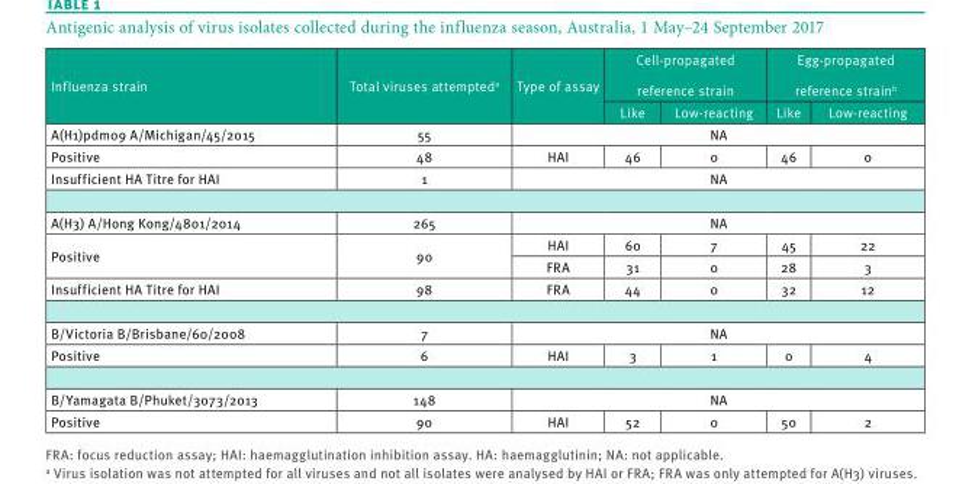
<table><thead><tr><td rowspan="2">Influenza strain</td><td rowspan="2">Total viruses attempted<sup>a</sup></td><td rowspan="2">Type of assay</td><td colspan="2">Cell-propagated reference strain</td><td colspan="2">Egg-propagated reference strain<sup>b</sup></td></tr><tr><td>Like</td><td>Low-reacting</td><td>Like</td><td>Low-reacting</td></tr></thead><tbody><tr><td>A(H1)pdm09 A/Michigan/45/2015</td><td>55</td><td colspan="5">NA</td></tr><tr><td>Positive</td><td>48</td><td>HAI</td><td>46</td><td>0</td><td>46</td><td>0</td></tr><tr><td>Insufficient HA Titre for HAI</td><td>1</td><td colspan="5">NA</td></tr><tr><td>A(H3) A/Hong Kong/4801/2014</td><td>265</td><td colspan="5">NA</td></tr><tr><td rowspan="2">Positive</td><td rowspan="2">90</td><td>HAI</td><td>60</td><td>7</td><td>45</td><td>22</td></tr><tr><td>FRA</td><td>31</td><td>0</td><td>28</td><td>3</td></tr><tr><td>Insufficient HA Titre for HAI</td><td>98</td><td>FRA</td><td>44</td><td>0</td><td>32</td><td>12</td></tr><tr><td>B/Victoria B/Brisbane/60/2008</td><td>7</td><td colspan="5">NA</td></tr><tr><td>Positive</td><td>6</td><td>HAI</td><td>3</td><td>1</td><td>0</td><td>4</td></tr><tr><td>B/Yamagata B/Phuket/3073/2013</td><td>148</td><td colspan="5">NA</td></tr><tr><td>Positive</td><td>90</td><td>HAI</td><td>52</td><td>0</td><td>50</td><td>2</td></tr></tbody></table>